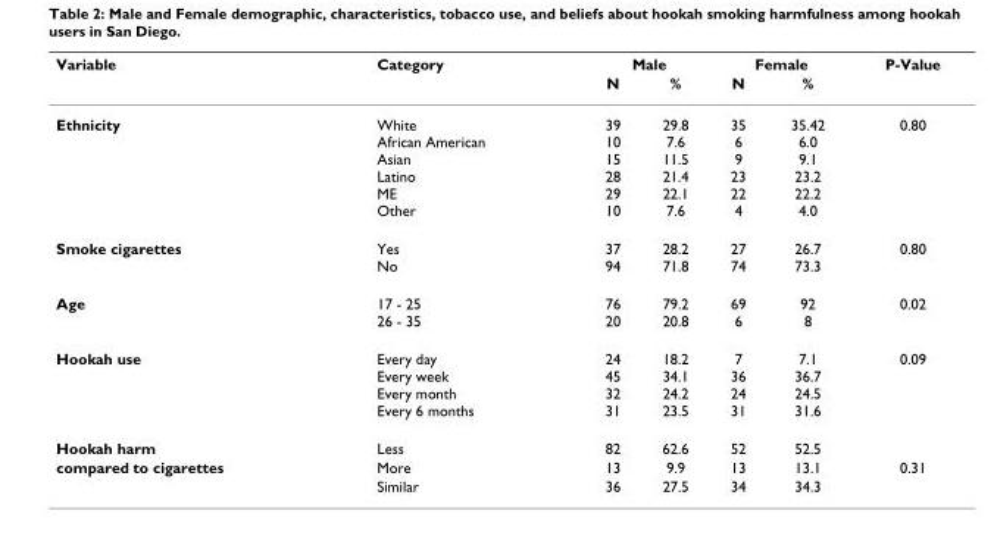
<table><thead><tr><td rowspan="2">Variable</td><td rowspan="2">Category</td><td colspan="2">Male</td><td colspan="2">Female</td><td rowspan="2">P-Value</td></tr><tr><td>N</td><td>%</td><td>N</td><td>%</td></tr></thead><tbody><tr><td>Ethnicity</td><td>White African American Asian Latino ME Other</td><td>39 10 15 28 29 10</td><td>29.8 7.6 11.5 21.4 22.1 7.6</td><td>35 6 9 23 22 4</td><td>35.42 6.0 9.1 23.2 22.2 4.0</td><td>0.80</td></tr><tr><td>Smoke cigarettes</td><td>Yes No</td><td>37 94</td><td>28.2 71.8</td><td>27 74</td><td>26.7 73.3</td><td>0.80</td></tr><tr><td>Age</td><td>17 - 25 26 - 35</td><td>76 20</td><td>79.2 20.8</td><td>69 6</td><td>92 8</td><td>0.02</td></tr><tr><td>Hookah use</td><td>Every day Every week Every month Every 6 months</td><td>24 45 32 31</td><td>18.2 34.1 24.2 23.5</td><td>7 36 24 31</td><td>7.1 36.7 24.5 31.6</td><td>0.09</td></tr><tr><td>Hookah harm</td><td>Less</td><td>82</td><td>62.6</td><td>52</td><td>52.5</td><td></td></tr><tr><td rowspan="2">compared to cigarettes</td><td>More</td><td>13</td><td>9.9</td><td>13</td><td>13.1</td><td>0.31</td></tr><tr><td>Similar</td><td>36</td><td>27.5</td><td>34</td><td>34.3</td><td></td></tr></tbody></table>